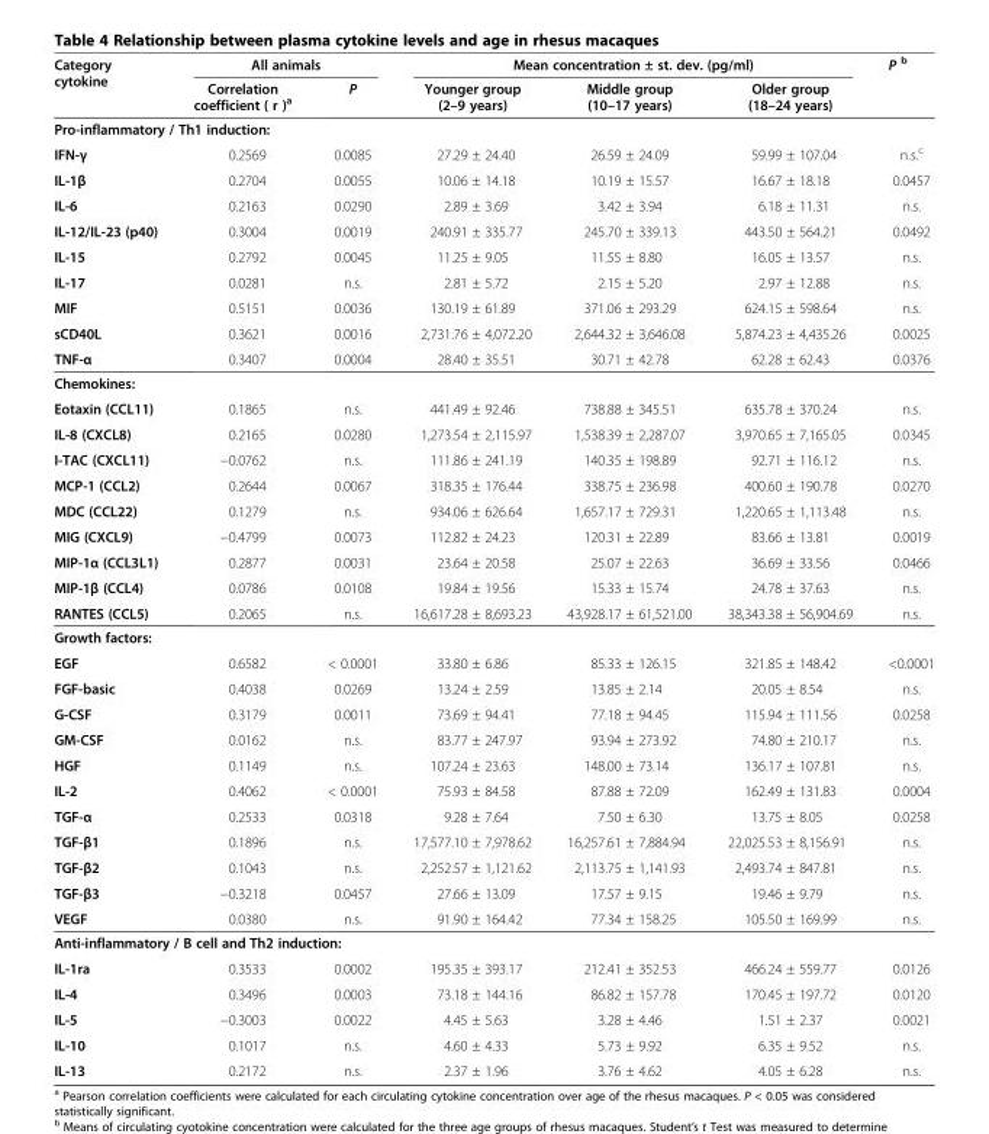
<table><thead><tr><td rowspan="2">Category cytokine</td><td colspan="2">All animals</td><td colspan="3">Mean concentration ± st. dev. (pg/ml)</td><td rowspan="2">P <sup>b</sup></td></tr><tr><td>Correlation coefficient ( r )<sup>a</sup></td><td>P</td><td>Younger group (2–9 years)</td><td>Middle group (10–17 years)</td><td>Older group (18–24 years)</td></tr></thead><tbody><tr><td colspan="7">Pro-inflammatory / Th1 induction:</td></tr><tr><td>IFN-γ</td><td>0.2569</td><td>0.0085</td><td>27.29 ± 24.40</td><td>26.59 ± 24.09</td><td>59.99 ± 107.04</td><td>n.s.<sup>c</sup></td></tr><tr><td>IL-1β</td><td>0.2704</td><td>0.0055</td><td>10.06 ± 14.18</td><td>10.19 ± 15.57</td><td>16.67 ± 18.18</td><td>0.0457</td></tr><tr><td>IL-6</td><td>0.2163</td><td>0.0290</td><td>2.89 ± 3.69</td><td>3.42 ± 3.94</td><td>6.18 ± 11.31</td><td>n.s.</td></tr><tr><td>IL-12/IL-23 (p40)</td><td>0.3004</td><td>0.0019</td><td>240.91 ± 335.77</td><td>245.70 ± 339.13</td><td>443.50 ± 564.21</td><td>0.0492</td></tr><tr><td>IL-15</td><td>0.2792</td><td>0.0045</td><td>11.25 ± 9.05</td><td>11.55 ± 8.80</td><td>16.05 ± 13.57</td><td>n.s.</td></tr><tr><td>IL-17</td><td>0.0281</td><td>n.s.</td><td>2.81 ± 5.72</td><td>2.15 ± 5.20</td><td>2.97 ± 12.88</td><td>n.s.</td></tr><tr><td>MIF</td><td>0.5151</td><td>0.0036</td><td>130.19 ± 61.89</td><td>371.06 ± 293.29</td><td>624.15 ± 598.64</td><td>n.s.</td></tr><tr><td>sCD40L</td><td>0.3621</td><td>0.0016</td><td>2,731.76 ± 4,072.20</td><td>2,644.32 ± 3,646.08</td><td>5,874.23 ± 4,435.26</td><td>0.0025</td></tr><tr><td>TNF-α</td><td>0.3407</td><td>0.0004</td><td>28.40 ± 35.51</td><td>30.71 ± 42.78</td><td>62.28 ± 62.43</td><td>0.0376</td></tr><tr><td colspan="7">Chemokines:</td></tr><tr><td>Eotaxin (CCL11)</td><td>0.1865</td><td>n.s.</td><td>441.49 ± 92.46</td><td>738.88 ± 345.51</td><td>635.78 ± 370.24</td><td>n.s.</td></tr><tr><td>IL-8 (CXCL8)</td><td>0.2165</td><td>0.0280</td><td>1,273.54 ± 2,115.97</td><td>1,538.39 ± 2,287.07</td><td>3,970.65 ± 7,165.05</td><td>0.0345</td></tr><tr><td>I-TAC (CXCL11)</td><td>−0.0762</td><td>n.s.</td><td>111.86 ± 241.19</td><td>140.35 ± 198.89</td><td>92.71 ± 116.12</td><td>n.s.</td></tr><tr><td>MCP-1 (CCL2)</td><td>0.2644</td><td>0.0067</td><td>318.35 ± 176.44</td><td>338.75 ± 236.98</td><td>400.60 ± 190.78</td><td>0.0270</td></tr><tr><td>MDC (CCL22)</td><td>0.1279</td><td>n.s.</td><td>934.06 ± 626.64</td><td>1,657.17 ± 729.31</td><td>1,220.65 ± 1,113.48</td><td>n.s.</td></tr><tr><td>MIG (CXCL9)</td><td>−0.4799</td><td>0.0073</td><td>112.82 ± 24.23</td><td>120.31 ± 22.89</td><td>83.66 ± 13.81</td><td>0.0019</td></tr><tr><td>MIP-1α (CCL3L1)</td><td>0.2877</td><td>0.0031</td><td>23.64 ± 20.58</td><td>25.07 ± 22.63</td><td>36.69 ± 33.56</td><td>0.0466</td></tr><tr><td>MIP-1β (CCL4)</td><td>0.0786</td><td>0.0108</td><td>19.84 ± 19.56</td><td>15.33 ± 15.74</td><td>24.78 ± 37.63</td><td>n.s.</td></tr><tr><td>RANTES (CCL5)</td><td>0.2065</td><td>n.s.</td><td>16,617.28 ± 8,693.23</td><td>43,928.17 ± 61,521.00</td><td>38,343.38 ± 56,904.69</td><td>n.s.</td></tr><tr><td colspan="7">Growth factors:</td></tr><tr><td>EGF</td><td>0.6582</td><td>&lt; 0.0001</td><td>33.80 ± 6.86</td><td>85.33 ± 126.15</td><td>321.85 ± 148.42</td><td>&lt;0.0001</td></tr><tr><td>FGF-basic</td><td>0.4038</td><td>0.0269</td><td>13.24 ± 2.59</td><td>13.85 ± 2.14</td><td>20.05 ± 8.54</td><td>n.s.</td></tr><tr><td>G-CSF</td><td>0.3179</td><td>0.0011</td><td>73.69 ± 94.41</td><td>77.18 ± 94.45</td><td>115.94 ± 111.56</td><td>0.0258</td></tr><tr><td>GM-CSF</td><td>0.0162</td><td>n.s.</td><td>83.77 ± 247.97</td><td>93.94 ± 273.92</td><td>74.80 ± 210.17</td><td>n.s.</td></tr><tr><td>HGF</td><td>0.1149</td><td>n.s.</td><td>107.24 ± 23.63</td><td>148.00 ± 73.14</td><td>136.17 ± 107.81</td><td>n.s.</td></tr><tr><td>IL-2</td><td>0.4062</td><td>&lt; 0.0001</td><td>75.93 ± 84.58</td><td>87.88 ± 72.09</td><td>162.49 ± 131.83</td><td>0.0004</td></tr><tr><td>TGF-α</td><td>0.2533</td><td>0.0318</td><td>9.28 ± 7.64</td><td>7.50 ± 6.30</td><td>13.75 ± 8.05</td><td>0.0258</td></tr><tr><td>TGF-β1</td><td>0.1896</td><td>n.s.</td><td>17,577.10 ± 7,978.62</td><td>16,257.61 ± 7,884.94</td><td>22,025.53 ± 8,156.91</td><td>n.s.</td></tr><tr><td>TGF-β2</td><td>0.1043</td><td>n.s.</td><td>2,252.57 ± 1,121.62</td><td>2,113.75 ± 1,141.93</td><td>2,493.74 ± 847.81</td><td>n.s.</td></tr><tr><td>TGF-β3</td><td>−0.3218</td><td>0.0457</td><td>27.66 ± 13.09</td><td>17.57 ± 9.15</td><td>19.46 ± 9.79</td><td>n.s.</td></tr><tr><td>VEGF</td><td>0.0380</td><td>n.s.</td><td>91.90 ± 164.42</td><td>77.34 ± 158.25</td><td>105.50 ± 169.99</td><td>n.s.</td></tr><tr><td colspan="7">Anti-inflammatory / B cell and Th2 induction:</td></tr><tr><td>IL-1ra</td><td>0.3533</td><td>0.0002</td><td>195.35 ± 393.17</td><td>212.41 ± 352.53</td><td>466.24 ± 559.77</td><td>0.0126</td></tr><tr><td>IL-4</td><td>0.3496</td><td>0.0003</td><td>73.18 ± 144.16</td><td>86.82 ± 157.78</td><td>170.45 ± 197.72</td><td>0.0120</td></tr><tr><td>IL-5</td><td>−0.3003</td><td>0.0022</td><td>4.45 ± 5.63</td><td>3.28 ± 4.46</td><td>1.51 ± 2.37</td><td>0.0021</td></tr><tr><td>IL-10</td><td>0.1017</td><td>n.s.</td><td>4.60 ± 4.33</td><td>5.73 ± 9.92</td><td>6.35 ± 9.52</td><td>n.s.</td></tr><tr><td>IL-13</td><td>0.2172</td><td>n.s.</td><td>2.37 ± 1.96</td><td>3.76 ± 4.62</td><td>4.05 ± 6.28</td><td>n.s.</td></tr></tbody></table>